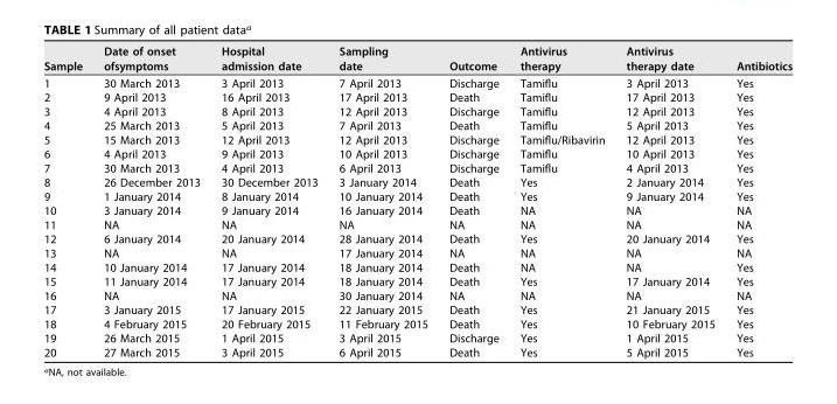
<table><thead><tr><td>Sample</td><td>Date of onset ofsymptoms</td><td>Hospital admission date</td><td>Sampling date</td><td>Outcome</td><td>Antivirus therapy</td><td>Antivirus therapy date</td><td>Antibiotics</td></tr></thead><tbody><tr><td>1</td><td>30 March 2013</td><td>3 April 2013</td><td>7 April 2013</td><td>Discharge</td><td>Tamiflu</td><td>3 April 2013</td><td>Yes</td></tr><tr><td>2</td><td>9 April 2013</td><td>16 April 2013</td><td>17 April 2013</td><td>Death</td><td>Tamiflu</td><td>17 April 2013</td><td>Yes</td></tr><tr><td>3</td><td>4 April 2013</td><td>8 April 2013</td><td>12 April 2013</td><td>Discharge</td><td>Tamiflu</td><td>12 April 2013</td><td>Yes</td></tr><tr><td>4</td><td>25 March 2013</td><td>5 April 2013</td><td>7 April 2013</td><td>Death</td><td>Tamiflu</td><td>5 April 2013</td><td>Yes</td></tr><tr><td>5</td><td>15 March 2013</td><td>12 April 2013</td><td>12 April 2013</td><td>Discharge</td><td>Tamiflu/Ribavirin</td><td>12 April 2013</td><td>Yes</td></tr><tr><td>6</td><td>4 April 2013</td><td>9 April 2013</td><td>10 April 2013</td><td>Discharge</td><td>Tamiflu</td><td>10 April 2013</td><td>Yes</td></tr><tr><td>7</td><td>30 March 2013</td><td>4 April 2013</td><td>6 April 2013</td><td>Discharge</td><td>Tamiflu</td><td>4 April 2013</td><td>Yes</td></tr><tr><td>8</td><td>26 December 2013</td><td>30 December 2013</td><td>3 January 2014</td><td>Death</td><td>Yes</td><td>2 January 2014</td><td>Yes</td></tr><tr><td>9</td><td>1 January 2014</td><td>8 January 2014</td><td>10 January 2014</td><td>Death</td><td>Yes</td><td>9 January 2014</td><td>Yes</td></tr><tr><td>10</td><td>3 January 2014</td><td>9 January 2014</td><td>16 January 2014</td><td>Death</td><td>NA</td><td>NA</td><td>NA</td></tr><tr><td>11</td><td>NA</td><td>NA</td><td>NA</td><td>NA</td><td>NA</td><td>NA</td><td>NA</td></tr><tr><td>12</td><td>6 January 2014</td><td>20 January 2014</td><td>28 January 2014</td><td>Death</td><td>Yes</td><td>20 January 2014</td><td>Yes</td></tr><tr><td>13</td><td>NA</td><td>NA</td><td>17 January 2014</td><td>NA</td><td>NA</td><td>NA</td><td>NA</td></tr><tr><td>14</td><td>10 January 2014</td><td>17 January 2014</td><td>18 January 2014</td><td>Death</td><td>NA</td><td>NA</td><td>Yes</td></tr><tr><td>15</td><td>11 January 2014</td><td>17 January 2014</td><td>18 January 2014</td><td>Death</td><td>Yes</td><td>17 January 2014</td><td>Yes</td></tr><tr><td>16</td><td>NA</td><td>NA</td><td>30 January 2014</td><td>NA</td><td>NA</td><td>NA</td><td>NA</td></tr><tr><td>17</td><td>3 January 2015</td><td>17 January 2015</td><td>22 January 2015</td><td>Death</td><td>Yes</td><td>21 January 2015</td><td>Yes</td></tr><tr><td>18</td><td>4 February 2015</td><td>20 February 2015</td><td>11 February 2015</td><td>Death</td><td>Yes</td><td>10 February 2015</td><td>Yes</td></tr><tr><td>19</td><td>26 March 2015</td><td>1 April 2015</td><td>3 April 2015</td><td>Discharge</td><td>Yes</td><td>1 April 2015</td><td>Yes</td></tr><tr><td>20</td><td>27 March 2015</td><td>3 April 2015</td><td>6 April 2015</td><td>Death</td><td>Yes</td><td>5 April 2015</td><td>Yes</td></tr></tbody></table>